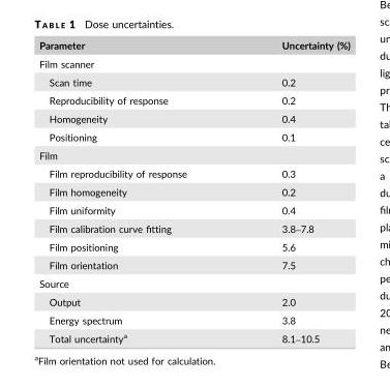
<table><thead><tr><td>Parameter</td><td>Uncertainty (%)</td></tr></thead><tbody><tr><td colspan="2">Film scanner</td></tr><tr><td>Scan time</td><td>0.2</td></tr><tr><td>Reproducibility of response</td><td>0.2</td></tr><tr><td>Homogeneity</td><td>0.4</td></tr><tr><td>Positioning</td><td>0.1</td></tr><tr><td colspan="2">Film</td></tr><tr><td>Film reproducibility of response</td><td>0.3</td></tr><tr><td>Film homogeneity</td><td>0.2</td></tr><tr><td>Film uniformity</td><td>0.4</td></tr><tr><td>Film calibration curve fitting</td><td>3.8–7.8</td></tr><tr><td>Film positioning</td><td>5.6</td></tr><tr><td>Film orientation</td><td>7.5</td></tr><tr><td colspan="2">Source</td></tr><tr><td>Output</td><td>2.0</td></tr><tr><td>Energy spectrum</td><td>3.8</td></tr><tr><td>Total uncertainty<sup>a</sup></td><td>8.1–10.5</td></tr></tbody></table>